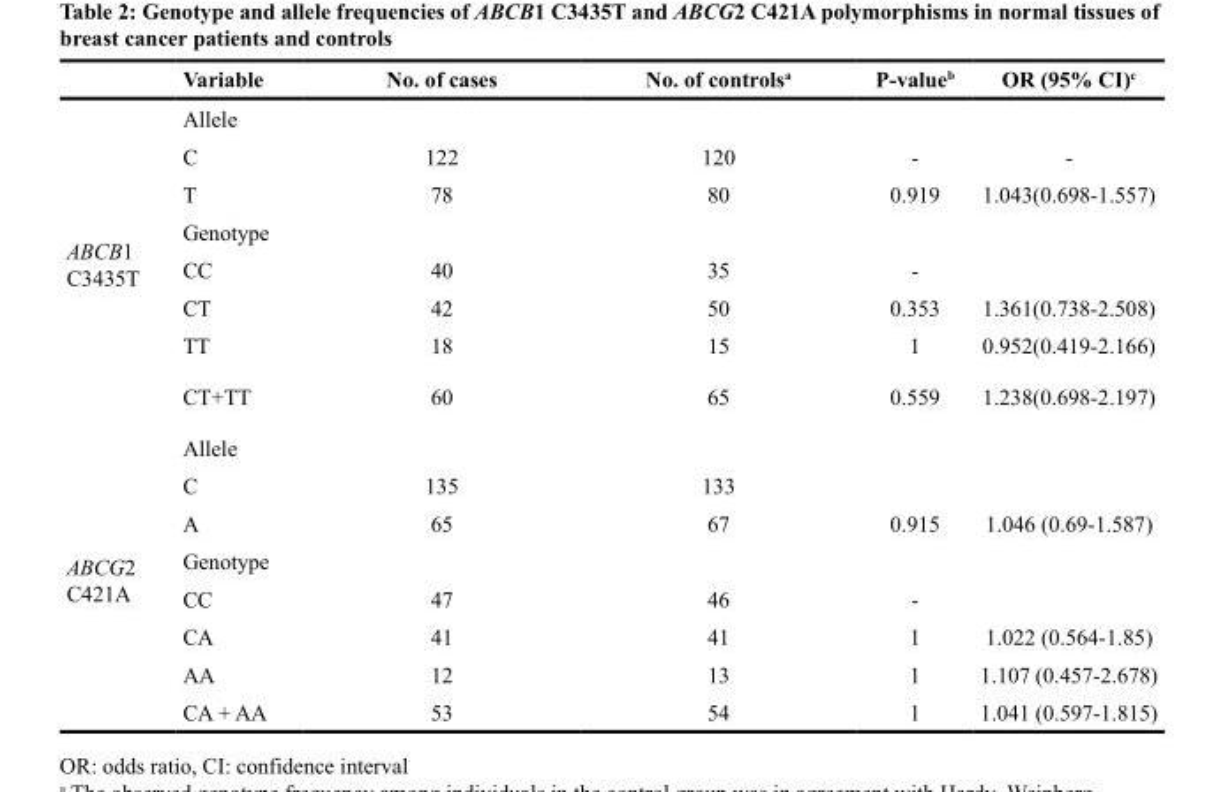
<table><thead><tr><td></td><td>Variable</td><td>No. of cases</td><td>No. of controls<sup>a</sup></td><td>P-value<sup>b</sup></td><td>OR (95% CI)<sup>c</sup></td></tr></thead><tbody><tr><td rowspan="8">ABCB1 C3435T</td><td>Allele</td><td></td><td></td><td></td><td></td></tr><tr><td>C</td><td>122</td><td>120</td><td>-</td><td>-</td></tr><tr><td>T</td><td>78</td><td>80</td><td>0.919</td><td>1.043(0.698-1.557)</td></tr><tr><td>Genotype</td><td></td><td></td><td></td><td></td></tr><tr><td>CC</td><td>40</td><td>35</td><td>-</td><td></td></tr><tr><td>CT</td><td>42</td><td>50</td><td>0.353</td><td>1.361(0.738-2.508)</td></tr><tr><td>TT</td><td>18</td><td>15</td><td>1</td><td>0.952(0.419-2.166)</td></tr><tr><td>CT+TT</td><td>60</td><td>65</td><td>0.559</td><td>1.238(0.698-2.197)</td></tr><tr><td rowspan="8">ABCG2 C421A</td><td>Allele</td><td></td><td></td><td></td><td></td></tr><tr><td>C</td><td>135</td><td>133</td><td></td><td></td></tr><tr><td>A</td><td>65</td><td>67</td><td>0.915</td><td>1.046 (0.69-1.587)</td></tr><tr><td>Genotype</td><td></td><td></td><td></td><td></td></tr><tr><td>CC</td><td>47</td><td>46</td><td>-</td><td></td></tr><tr><td>CA</td><td>41</td><td>41</td><td>1</td><td>1.022 (0.564-1.85)</td></tr><tr><td>AA</td><td>12</td><td>13</td><td>1</td><td>1.107 (0.457-2.678)</td></tr><tr><td>CA + AA</td><td>53</td><td>54</td><td>1</td><td>1.041 (0.597-1.815)</td></tr></tbody></table>